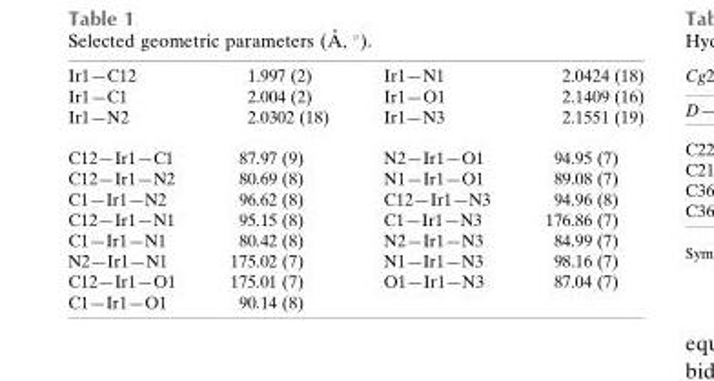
<table><tbody><tr><td>Ir1—C12</td><td>1.997 (2)</td><td>Ir1—N1</td><td>2.0424 (18)</td></tr><tr><td>Ir1—C1</td><td>2.004 (2)</td><td>Ir1—O1</td><td>2.1409 (16)</td></tr><tr><td>Ir1—N2</td><td>2.0302 (18)</td><td>Ir1—N3</td><td>2.1551 (19)</td></tr><tr><td>C12—Ir1—C1</td><td>87.97 (9)</td><td>N2—Ir1—O1</td><td>94.95 (7)</td></tr><tr><td>C12—Ir1—N2</td><td>80.69 (8)</td><td>N1—Ir1—O1</td><td>89.08 (7)</td></tr><tr><td>C1—Ir1—N2</td><td>96.62 (8)</td><td>C12—Ir1—N3</td><td>94.96 (8)</td></tr><tr><td>C12—Ir1—N1</td><td>95.15 (8)</td><td>C1—Ir1—N3</td><td>176.86 (7)</td></tr><tr><td>C1—Ir1—N1</td><td>80.42 (8)</td><td>N2—Ir1—N3</td><td>84.99 (7)</td></tr><tr><td>N2—Ir1—N1</td><td>175.02 (7)</td><td>N1—Ir1—N3</td><td>98.16 (7)</td></tr><tr><td>C12—Ir1—O1</td><td>175.01 (7)</td><td>O1—Ir1—N3</td><td>87.04 (7)</td></tr><tr><td>C1—Ir1—O1</td><td>90.14 (8)</td><td></td><td></td></tr></tbody></table>